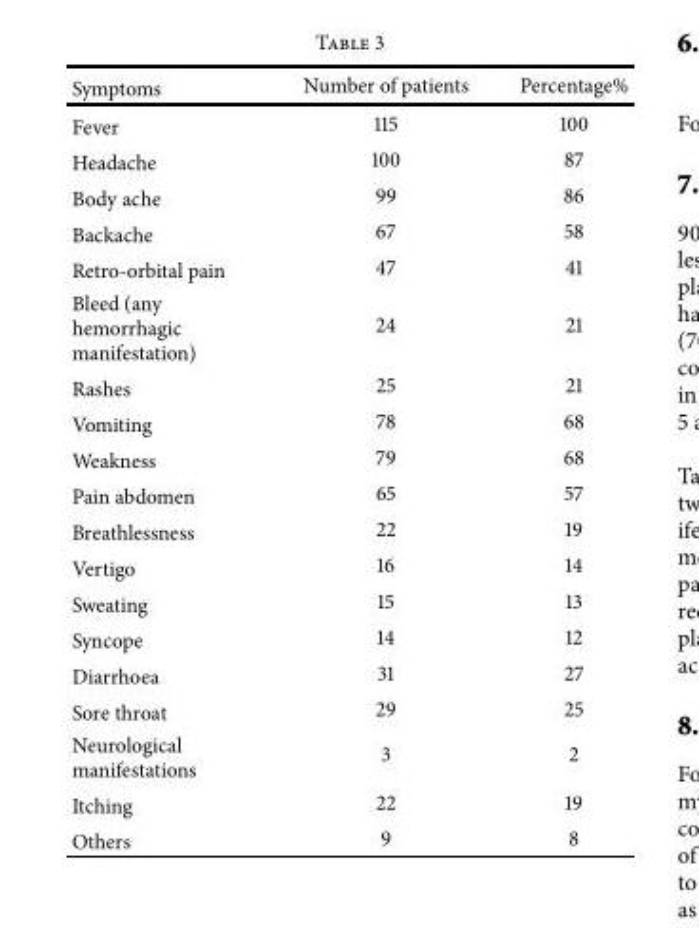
<table><thead><tr><td>Symptoms</td><td>Number of patients</td><td>Percentage%</td></tr></thead><tbody><tr><td>Fever</td><td>115</td><td>100</td></tr><tr><td>Headache</td><td>100</td><td>87</td></tr><tr><td>Body ache</td><td>99</td><td>86</td></tr><tr><td>Backache</td><td>67</td><td>58</td></tr><tr><td>Retro-orbital pain</td><td>47</td><td>41</td></tr><tr><td>Bleed (any hemorrhagic manifestation)</td><td>24</td><td>21</td></tr><tr><td>Rashes</td><td>25</td><td>21</td></tr><tr><td>Vomiting</td><td>78</td><td>68</td></tr><tr><td>Weakness</td><td>79</td><td>68</td></tr><tr><td>Pain abdomen</td><td>65</td><td>57</td></tr><tr><td>Breathlessness</td><td>22</td><td>19</td></tr><tr><td>Vertigo</td><td>16</td><td>14</td></tr><tr><td>Sweating</td><td>15</td><td>13</td></tr><tr><td>Syncope</td><td>14</td><td>12</td></tr><tr><td>Diarrhoea</td><td>31</td><td>27</td></tr><tr><td>Sore throat</td><td>29</td><td>25</td></tr><tr><td>Neurological manifestations</td><td>3</td><td>2</td></tr><tr><td>Itching</td><td>22</td><td>19</td></tr><tr><td>Others</td><td>9</td><td>8</td></tr></tbody></table>